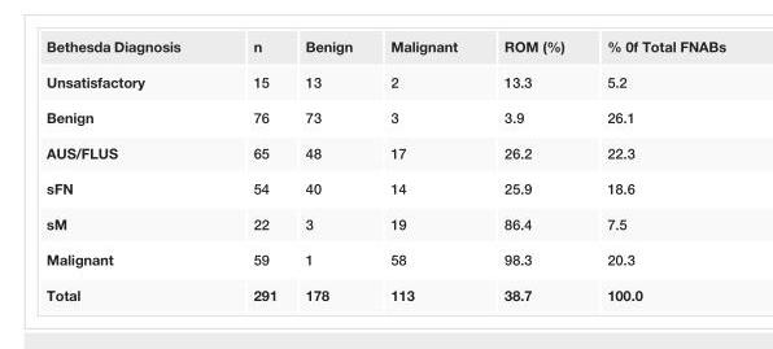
<table><tbody><tr><td>Bethesda Diagnosis</td><td>n</td><td>Benign</td><td>Malignant</td><td>ROM (%)</td><td>% 0f Total FNABs</td></tr><tr><td>Unsatisfactory</td><td>15</td><td>13</td><td>2</td><td>13.3</td><td>5.2</td></tr><tr><td>Benign</td><td>76</td><td>73</td><td>3</td><td>3.9</td><td>26.1</td></tr><tr><td>AUS/FLUS</td><td>65</td><td>48</td><td>17</td><td>26.2</td><td>22.3</td></tr><tr><td>sFN</td><td>54</td><td>40</td><td>14</td><td>25.9</td><td>18.6</td></tr><tr><td>sM</td><td>22</td><td>3</td><td>19</td><td>86.4</td><td>7.5</td></tr><tr><td>Malignant</td><td>59</td><td>1</td><td>58</td><td>98.3</td><td>20.3</td></tr><tr><td>Total</td><td>291</td><td>178</td><td>113</td><td>38.7</td><td>100.0</td></tr></tbody></table>